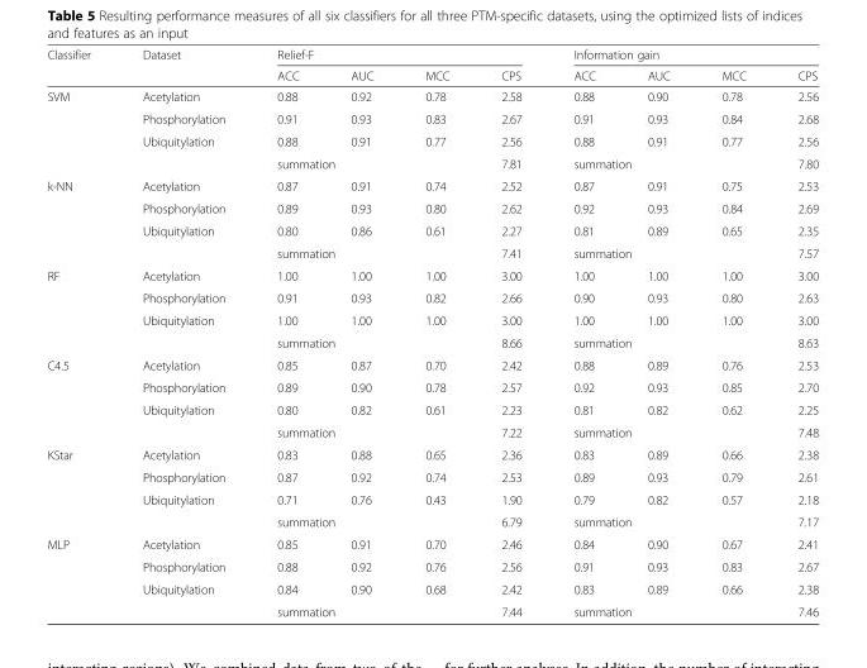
<table><thead><tr><td rowspan="2">Classifier</td><td rowspan="2">Dataset</td><td colspan="4">Relief-F</td><td colspan="4">Information gain</td></tr><tr><td>ACC</td><td>AUC</td><td>MCC</td><td>CPS</td><td>ACC</td><td>AUC</td><td>MCC</td><td>CPS</td></tr></thead><tbody><tr><td rowspan="4">SVM</td><td>Acetylation</td><td>0.88</td><td>0.92</td><td>0.78</td><td>2.58</td><td>0.88</td><td>0.90</td><td>0.78</td><td>2.56</td></tr><tr><td>Phosphorylation</td><td>0.91</td><td>0.93</td><td>0.83</td><td>2.67</td><td>0.91</td><td>0.93</td><td>0.84</td><td>2.68</td></tr><tr><td>Ubiquitylation</td><td>0.88</td><td>0.91</td><td>0.77</td><td>2.56</td><td>0.88</td><td>0.91</td><td>0.77</td><td>2.56</td></tr><tr><td></td><td colspan="3">summation</td><td>7.81</td><td colspan="3">summation</td><td>7.80</td></tr><tr><td rowspan="4">k-NN</td><td>Acetylation</td><td>0.87</td><td>0.91</td><td>0.74</td><td>2.52</td><td>0.87</td><td>0.91</td><td>0.75</td><td>2.53</td></tr><tr><td>Phosphorylation</td><td>0.89</td><td>0.93</td><td>0.80</td><td>2.62</td><td>0.92</td><td>0.93</td><td>0.84</td><td>2.69</td></tr><tr><td>Ubiquitylation</td><td>0.80</td><td>0.86</td><td>0.61</td><td>2.27</td><td>0.81</td><td>0.89</td><td>0.65</td><td>2.35</td></tr><tr><td></td><td colspan="3">summation</td><td>7.41</td><td colspan="3">summation</td><td>7.57</td></tr><tr><td rowspan="4">RF</td><td>Acetylation</td><td>1.00</td><td>1.00</td><td>1.00</td><td>3.00</td><td>1.00</td><td>1.00</td><td>1.00</td><td>3.00</td></tr><tr><td>Phosphorylation</td><td>0.91</td><td>0.93</td><td>0.82</td><td>2.66</td><td>0.90</td><td>0.93</td><td>0.80</td><td>2.63</td></tr><tr><td>Ubiquitylation</td><td>1.00</td><td>1.00</td><td>1.00</td><td>3.00</td><td>1.00</td><td>1.00</td><td>1.00</td><td>3.00</td></tr><tr><td></td><td colspan="3">summation</td><td>8.66</td><td colspan="3">summation</td><td>8.63</td></tr><tr><td rowspan="4">C4.5</td><td>Acetylation</td><td>0.85</td><td>0.87</td><td>0.70</td><td>2.42</td><td>0.88</td><td>0.89</td><td>0.76</td><td>2.53</td></tr><tr><td>Phosphorylation</td><td>0.89</td><td>0.90</td><td>0.78</td><td>2.57</td><td>0.92</td><td>0.93</td><td>0.85</td><td>2.70</td></tr><tr><td>Ubiquitylation</td><td>0.80</td><td>0.82</td><td>0.61</td><td>2.23</td><td>0.81</td><td>0.82</td><td>0.62</td><td>2.25</td></tr><tr><td></td><td colspan="3">summation</td><td>7.22</td><td colspan="3">summation</td><td>7.48</td></tr><tr><td rowspan="4">KStar</td><td>Acetylation</td><td>0.83</td><td>0.88</td><td>0.65</td><td>2.36</td><td>0.83</td><td>0.89</td><td>0.66</td><td>2.38</td></tr><tr><td>Phosphorylation</td><td>0.87</td><td>0.92</td><td>0.74</td><td>2.53</td><td>0.89</td><td>0.93</td><td>0.79</td><td>2.61</td></tr><tr><td>Ubiquitylation</td><td>0.71</td><td>0.76</td><td>0.43</td><td>1.90</td><td>0.79</td><td>0.82</td><td>0.57</td><td>2.18</td></tr><tr><td></td><td colspan="3">summation</td><td>6.79</td><td colspan="3">summation</td><td>7.17</td></tr><tr><td rowspan="4">MLP</td><td>Acetylation</td><td>0.85</td><td>0.91</td><td>0.70</td><td>2.46</td><td>0.84</td><td>0.90</td><td>0.67</td><td>2.41</td></tr><tr><td>Phosphorylation</td><td>0.88</td><td>0.92</td><td>0.76</td><td>2.56</td><td>0.91</td><td>0.93</td><td>0.83</td><td>2.67</td></tr><tr><td>Ubiquitylation</td><td>0.84</td><td>0.90</td><td>0.68</td><td>2.42</td><td>0.83</td><td>0.89</td><td>0.66</td><td>2.38</td></tr><tr><td></td><td colspan="3">summation</td><td>7.44</td><td colspan="3">summation</td><td>7.46</td></tr></tbody></table>